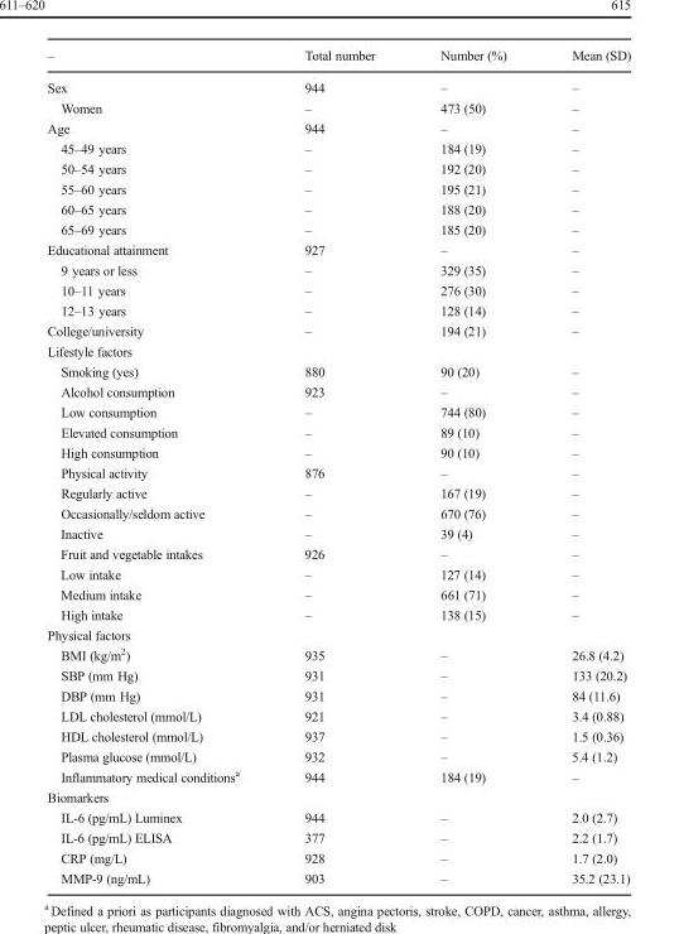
<table><thead><tr><td>–</td><td>Total number</td><td>Number (%)</td><td>Mean (SD)</td></tr></thead><tbody><tr><td>Sex</td><td>944</td><td>–</td><td>–</td></tr><tr><td>Women</td><td>–</td><td>473 (50)</td><td>–</td></tr><tr><td>Age</td><td>944</td><td>–</td><td>–</td></tr><tr><td>45–49 years</td><td>–</td><td>184 (19)</td><td>–</td></tr><tr><td>50–54 years</td><td>–</td><td>192 (20)</td><td>–</td></tr><tr><td>55–60 years</td><td>–</td><td>195 (21)</td><td>–</td></tr><tr><td>60–65 years</td><td>–</td><td>188 (20)</td><td>–</td></tr><tr><td>65–69 years</td><td>–</td><td>185 (20)</td><td>–</td></tr><tr><td>Educational attainment</td><td>927</td><td>–</td><td>–</td></tr><tr><td>9 years or less</td><td>–</td><td>329 (35)</td><td>–</td></tr><tr><td>10–11 years</td><td>–</td><td>276 (30)</td><td>–</td></tr><tr><td>12–13 years</td><td>–</td><td>128 (14)</td><td>–</td></tr><tr><td>College/university</td><td>–</td><td>194 (21)</td><td>–</td></tr><tr><td colspan="4">Lifestyle factors</td></tr><tr><td>Smoking (yes)</td><td>880</td><td>90 (20)</td><td>–</td></tr><tr><td>Alcohol consumption</td><td>923</td><td>–</td><td>–</td></tr><tr><td>Low consumption</td><td>–</td><td>744 (80)</td><td>–</td></tr><tr><td>Elevated consumption</td><td>–</td><td>89 (10)</td><td>–</td></tr><tr><td>High consumption</td><td>–</td><td>90 (10)</td><td>–</td></tr><tr><td>Physical activity</td><td>876</td><td>–</td><td>–</td></tr><tr><td>Regularly active</td><td>–</td><td>167 (19)</td><td>–</td></tr><tr><td>Occasionally/seldom active</td><td>–</td><td>670 (76)</td><td>–</td></tr><tr><td>Inactive</td><td>–</td><td>39 (4)</td><td>–</td></tr><tr><td>Fruit and vegetable intakes</td><td>926</td><td>–</td><td>–</td></tr><tr><td>Low intake</td><td>–</td><td>127 (14)</td><td>–</td></tr><tr><td>Medium intake</td><td>–</td><td>661 (71)</td><td>–</td></tr><tr><td>High intake</td><td>–</td><td>138 (15)</td><td>–</td></tr><tr><td colspan="4">Physical factors</td></tr><tr><td>BMI (kg/m<sup>2</sup>)</td><td>935</td><td>–</td><td>26.8 (4.2)</td></tr><tr><td>SBP (mm Hg)</td><td>931</td><td>–</td><td>133 (20.2)</td></tr><tr><td>DBP (mm Hg)</td><td>931</td><td>–</td><td>84 (11.6)</td></tr><tr><td>LDL cholesterol (mmol/L)</td><td>921</td><td>–</td><td>3.4 (0.88)</td></tr><tr><td>HDL cholesterol (mmol/L)</td><td>937</td><td>–</td><td>1.5 (0.36)</td></tr><tr><td>Plasma glucose (mmol/L)</td><td>932</td><td>–</td><td>5.4 (1.2)</td></tr><tr><td>Inflammatory medical conditions<sup>a</sup></td><td>944</td><td>184 (19)</td><td>–</td></tr><tr><td colspan="4">Biomarkers</td></tr><tr><td>IL-6 (pg/mL) Luminex</td><td>944</td><td>–</td><td>2.0 (2.7)</td></tr><tr><td>IL-6 (pg/mL) ELISA</td><td>377</td><td>–</td><td>2.2 (1.7)</td></tr><tr><td>CRP (mg/L)</td><td>928</td><td>–</td><td>1.7 (2.0)</td></tr><tr><td>MMP-9 (ng/mL)</td><td>903</td><td>–</td><td>35.2 (23.1)</td></tr></tbody></table>